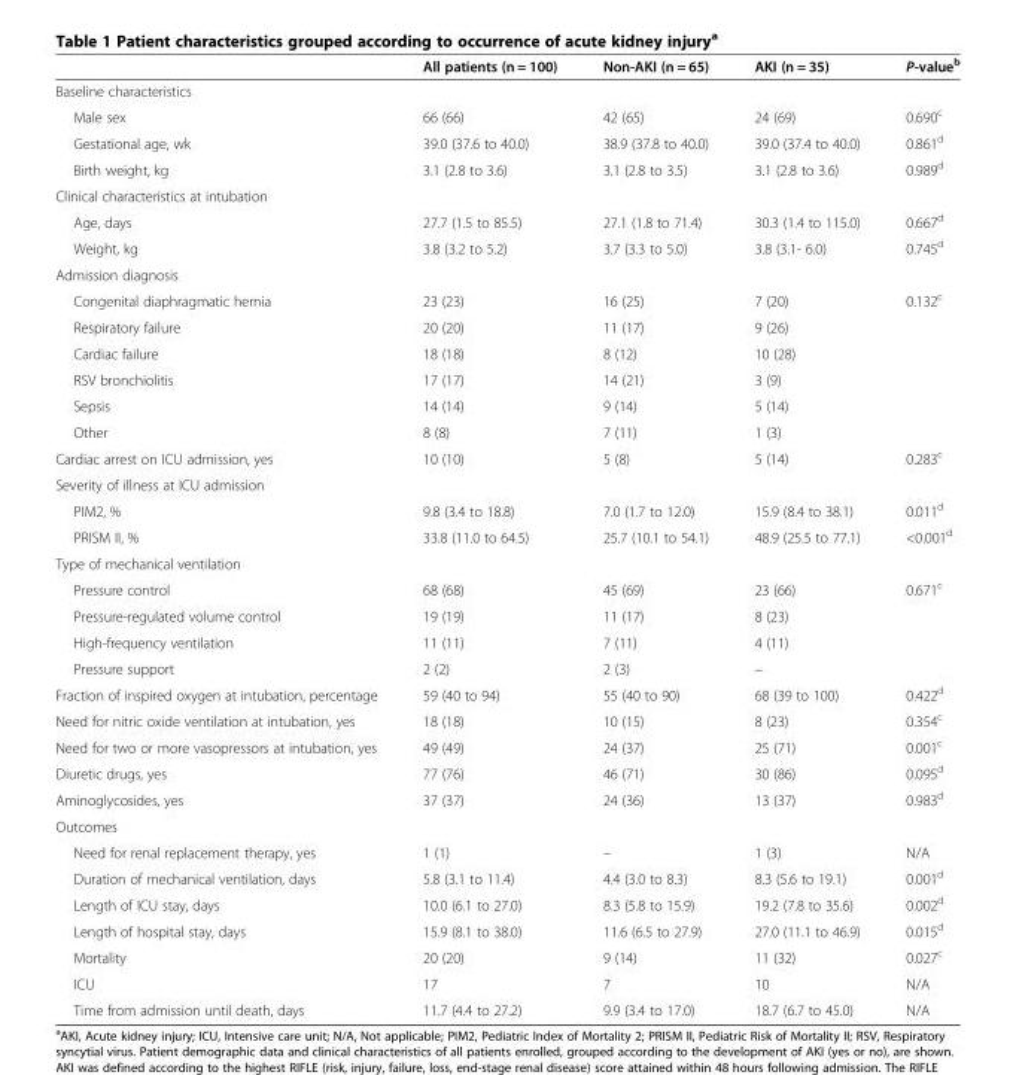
<table><thead><tr><td></td><td>All patients (n = 100)</td><td>Non-AKI (n = 65)</td><td>AKI (n = 35)</td><td>P-value<sup>b</sup></td></tr></thead><tbody><tr><td colspan="5">Baseline characteristics</td></tr><tr><td>Male sex</td><td>66 (66)</td><td>42 (65)</td><td>24 (69)</td><td>0.690<sup>c</sup></td></tr><tr><td>Gestational age, wk</td><td>39.0 (37.6 to 40.0)</td><td>38.9 (37.8 to 40.0)</td><td>39.0 (37.4 to 40.0)</td><td>0.861<sup>d</sup></td></tr><tr><td>Birth weight, kg</td><td>3.1 (2.8 to 3.6)</td><td>3.1 (2.8 to 3.5)</td><td>3.1 (2.8 to 3.6)</td><td>0.989<sup>d</sup></td></tr><tr><td colspan="5">Clinical characteristics at intubation</td></tr><tr><td>Age, days</td><td>27.7 (1.5 to 85.5)</td><td>27.1 (1.8 to 71.4)</td><td>30.3 (1.4 to 115.0)</td><td>0.667<sup>d</sup></td></tr><tr><td>Weight, kg</td><td>3.8 (3.2 to 5.2)</td><td>3.7 (3.3 to 5.0)</td><td>3.8 (3.1- 6.0)</td><td>0.745<sup>d</sup></td></tr><tr><td colspan="5">Admission diagnosis</td></tr><tr><td>Congenital diaphragmatic hernia</td><td>23 (23)</td><td>16 (25)</td><td>7 (20)</td><td>0.132<sup>c</sup></td></tr><tr><td>Respiratory failure</td><td>20 (20)</td><td>11 (17)</td><td>9 (26)</td><td></td></tr><tr><td>Cardiac failure</td><td>18 (18)</td><td>8 (12)</td><td>10 (28)</td><td></td></tr><tr><td>RSV bronchiolitis</td><td>17 (17)</td><td>14 (21)</td><td>3 (9)</td><td></td></tr><tr><td>Sepsis</td><td>14 (14)</td><td>9 (14)</td><td>5 (14)</td><td></td></tr><tr><td>Other</td><td>8 (8)</td><td>7 (11)</td><td>1 (3)</td><td></td></tr><tr><td>Cardiac arrest on ICU admission, yes</td><td>10 (10)</td><td>5 (8)</td><td>5 (14)</td><td>0.283<sup>c</sup></td></tr><tr><td colspan="5">Severity of illness at ICU admission</td></tr><tr><td>PIM2, %</td><td>9.8 (3.4 to 18.8)</td><td>7.0 (1.7 to 12.0)</td><td>15.9 (8.4 to 38.1)</td><td>0.011<sup>d</sup></td></tr><tr><td>PRISM II, %</td><td>33.8 (11.0 to 64.5)</td><td>25.7 (10.1 to 54.1)</td><td>48.9 (25.5 to 77.1)</td><td>&lt;0.001<sup>d</sup></td></tr><tr><td colspan="5">Type of mechanical ventilation</td></tr><tr><td>Pressure control</td><td>68 (68)</td><td>45 (69)</td><td>23 (66)</td><td>0.671<sup>c</sup></td></tr><tr><td>Pressure-regulated volume control</td><td>19 (19)</td><td>11 (17)</td><td>8 (23)</td><td></td></tr><tr><td>High-frequency ventilation</td><td>11 (11)</td><td>7 (11)</td><td>4 (11)</td><td></td></tr><tr><td>Pressure support</td><td>2 (2)</td><td>2 (3)</td><td>–</td><td></td></tr><tr><td>Fraction of inspired oxygen at intubation, percentage</td><td>59 (40 to 94)</td><td>55 (40 to 90)</td><td>68 (39 to 100)</td><td>0.422<sup>d</sup></td></tr><tr><td>Need for nitric oxide ventilation at intubation, yes</td><td>18 (18)</td><td>10 (15)</td><td>8 (23)</td><td>0.354<sup>c</sup></td></tr><tr><td>Need for two or more vasopressors at intubation, yes</td><td>49 (49)</td><td>24 (37)</td><td>25 (71)</td><td>0.001<sup>c</sup></td></tr><tr><td>Diuretic drugs, yes</td><td>77 (76)</td><td>46 (71)</td><td>30 (86)</td><td>0.095<sup>d</sup></td></tr><tr><td>Aminoglycosides, yes</td><td>37 (37)</td><td>24 (36)</td><td>13 (37)</td><td>0.983<sup>d</sup></td></tr><tr><td colspan="5">Outcomes</td></tr><tr><td>Need for renal replacement therapy, yes</td><td>1 (1)</td><td>–</td><td>1 (3)</td><td>N/A</td></tr><tr><td>Duration of mechanical ventilation, days</td><td>5.8 (3.1 to 11.4)</td><td>4.4 (3.0 to 8.3)</td><td>8.3 (5.6 to 19.1)</td><td>0.001<sup>d</sup></td></tr><tr><td>Length of ICU stay, days</td><td>10.0 (6.1 to 27.0)</td><td>8.3 (5.8 to 15.9)</td><td>19.2 (7.8 to 35.6)</td><td>0.002<sup>d</sup></td></tr><tr><td>Length of hospital stay, days</td><td>15.9 (8.1 to 38.0)</td><td>11.6 (6.5 to 27.9)</td><td>27.0 (11.1 to 46.9)</td><td>0.015<sup>d</sup></td></tr><tr><td>Mortality</td><td>20 (20)</td><td>9 (14)</td><td>11 (32)</td><td>0.027<sup>c</sup></td></tr><tr><td>ICU</td><td>17</td><td>7</td><td>10</td><td>N/A</td></tr><tr><td>Time from admission until death, days</td><td>11.7 (4.4 to 27.2)</td><td>9.9 (3.4 to 17.0)</td><td>18.7 (6.7 to 45.0)</td><td>N/A</td></tr></tbody></table>